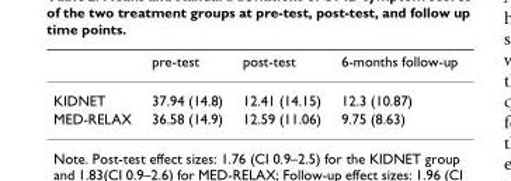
<table><thead><tr><td></td><td>pre-test</td><td>post-test</td><td>6-months follow-up</td></tr></thead><tbody><tr><td>KIDNET</td><td>37.94 (14.8)</td><td>12.41 (14.15)</td><td>12.3 (10.87)</td></tr><tr><td>MED-RELAX</td><td>36.58 (14.9)</td><td>12.59 (11.06)</td><td>9.75 (8.63)</td></tr></tbody></table>